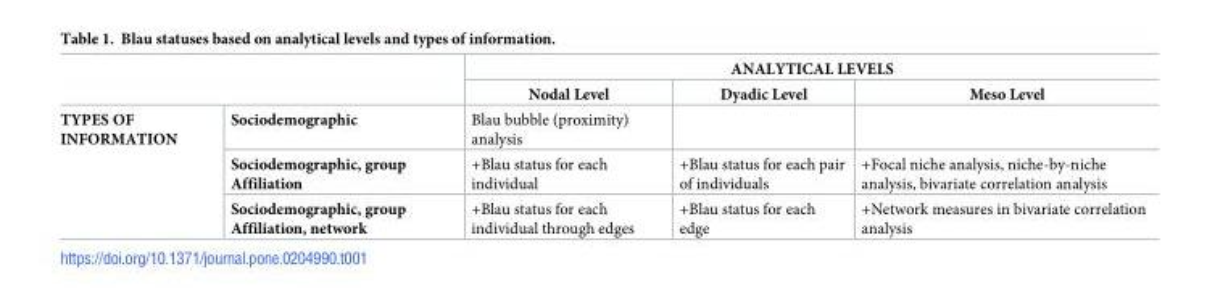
<table><thead><tr><td rowspan="2"></td><td rowspan="2"></td><td colspan="3">ANALYTICAL LEVELS</td></tr><tr><td>Nodal Level</td><td>Dyadic Level</td><td>Meso Level</td></tr></thead><tbody><tr><td rowspan="3">TYPES OF INFORMATION</td><td>Sociodemographic</td><td>Blau bubble (proximity) analysis</td><td></td><td></td></tr><tr><td>Sociodemographic, group Affiliation</td><td>+Blau status for each individual</td><td>+Blau status for each pair of individuals</td><td>+Focal niche analysis, niche-by-niche analysis, bivariate correlation analysis</td></tr><tr><td>Sociodemographic, group Affiliation, network</td><td>+Blau status for each individual through edges</td><td>+Blau status for each edge</td><td>+Network measures in bivariate correlation analysis</td></tr></tbody></table>